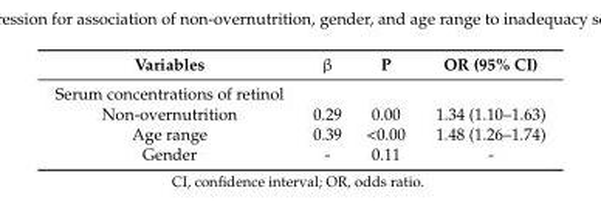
<table><thead><tr><td>Variables</td><td>β</td><td>P</td><td>OR (95% CI)</td></tr></thead><tbody><tr><td colspan="4">Serum concentrations of retinol</td></tr><tr><td>Non-overnutrition</td><td>0.29</td><td>0.00</td><td>1.34 (1.10–1.63)</td></tr><tr><td>Age range</td><td>0.39</td><td>&lt;0.00</td><td>1.48 (1.26–1.74)</td></tr><tr><td>Gender</td><td>-</td><td>0.11</td><td>-</td></tr></tbody></table>